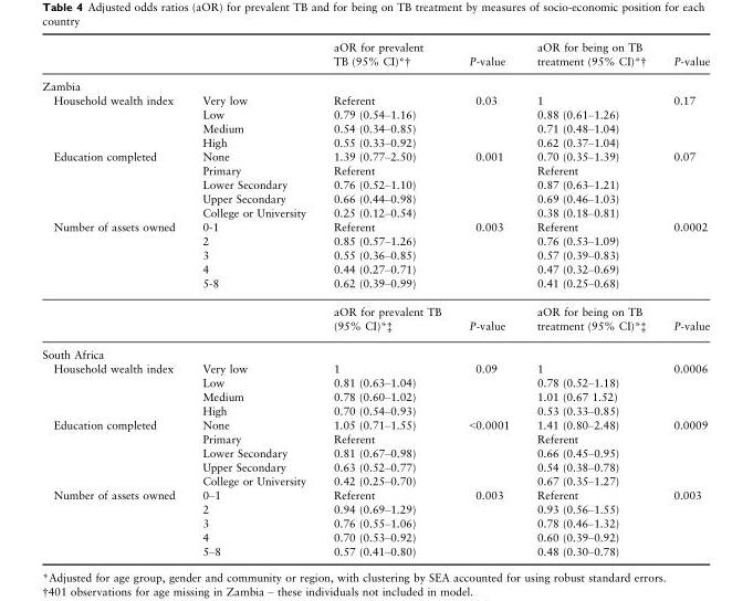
<table><thead><tr><td></td><td></td><td>aOR for prevalent TB (95% CI)*†</td><td>P-value</td><td>aOR for being on TB treatment (95% CI)*†</td><td>P-value</td></tr></thead><tbody><tr><td colspan="6">Zambia</td></tr><tr><td rowspan="4">Household wealth index</td><td>Very low</td><td>Referent</td><td rowspan="4">0.03</td><td>1</td><td rowspan="4">0.17</td></tr><tr><td>Low</td><td>0.79 (0.54–1.16)</td><td>0.88 (0.61–1.26)</td></tr><tr><td>Medium</td><td>0.54 (0.34–0.85)</td><td>0.71 (0.48–1.04)</td></tr><tr><td>High</td><td>0.55 (0.33–0.92)</td><td>0.62 (0.37–1.04)</td></tr><tr><td rowspan="5">Education completed</td><td>None</td><td>1.39 (0.77–2.50)</td><td rowspan="5">0.001</td><td>0.70 (0.35–1.39)</td><td rowspan="5">0.07</td></tr><tr><td>Primary</td><td>Referent</td><td>Referent</td></tr><tr><td>Lower Secondary</td><td>0.76 (0.52–1.10)</td><td>0.87 (0.63–1.21)</td></tr><tr><td>Upper Secondary</td><td>0.66 (0.44–0.98)</td><td>0.69 (0.46–1.03)</td></tr><tr><td>College or University</td><td>0.25 (0.12–0.54)</td><td>0.38 (0.18–0.81)</td></tr><tr><td rowspan="6">Number of assets owned</td><td>0-1</td><td>Referent</td><td rowspan="5">0.003</td><td>Referent</td><td rowspan="5">0.0002</td></tr><tr><td>2</td><td>0.85 (0.57–1.26)</td><td>0.76 (0.53–1.09)</td></tr><tr><td>3</td><td>0.55 (0.36–0.85)</td><td>0.57 (0.39–0.83)</td></tr><tr><td>4</td><td>0.44 (0.27–0.71)</td><td>0.47 (0.32–0.69)</td></tr><tr><td>5-8</td><td>0.62 (0.39–0.99)</td><td>0.41 (0.25–0.68)</td></tr><tr><td></td><td>aOR for prevalent TB (95% CI)*‡</td><td>P-value</td><td>aOR for being on TB treatment (95% CI)*‡</td><td>P-value</td></tr><tr><td colspan="6">South Africa</td></tr><tr><td rowspan="4">Household wealth index</td><td>Very low</td><td>1</td><td rowspan="4">0.09</td><td>1</td><td rowspan="4">0.0006</td></tr><tr><td>Low</td><td>0.81 (0.63–1.04)</td><td>0.78 (0.52–1.18)</td></tr><tr><td>Medium</td><td>0.78 (0.60–1.02)</td><td>1.01 (0.67 1.52)</td></tr><tr><td>High</td><td>0.70 (0.54–0.93)</td><td>0.53 (0.33–0.85)</td></tr><tr><td rowspan="5">Education completed</td><td>None</td><td>1.05 (0.71–1.55)</td><td rowspan="5">&lt;0.0001</td><td>1.41 (0.80–2.48)</td><td rowspan="5">0.0009</td></tr><tr><td>Primary</td><td>Referent</td><td>Referent</td></tr><tr><td>Lower Secondary</td><td>0.81 (0.67–0.98)</td><td>0.66 (0.45–0.95)</td></tr><tr><td>Upper Secondary</td><td>0.63 (0.52–0.77)</td><td>0.54 (0.38–0.78)</td></tr><tr><td>College or University</td><td>0.42 (0.25–0.70)</td><td>0.67 (0.35–1.27)</td></tr><tr><td rowspan="5">Number of assets owned</td><td>0–1</td><td>Referent</td><td rowspan="5">0.003</td><td>Referent</td><td rowspan="5">0.003</td></tr><tr><td>2</td><td>0.94 (0.69–1.29)</td><td>0.93 (0.56–1.55)</td></tr><tr><td>3</td><td>0.76 (0.55–1.06)</td><td>0.78 (0.46–1.32)</td></tr><tr><td>4</td><td>0.70 (0.53–0.92)</td><td>0.60 (0.39–0.92)</td></tr><tr><td>5–8</td><td>0.57 (0.41–0.80)</td><td>0.48 (0.30–0.78)</td></tr></tbody></table>